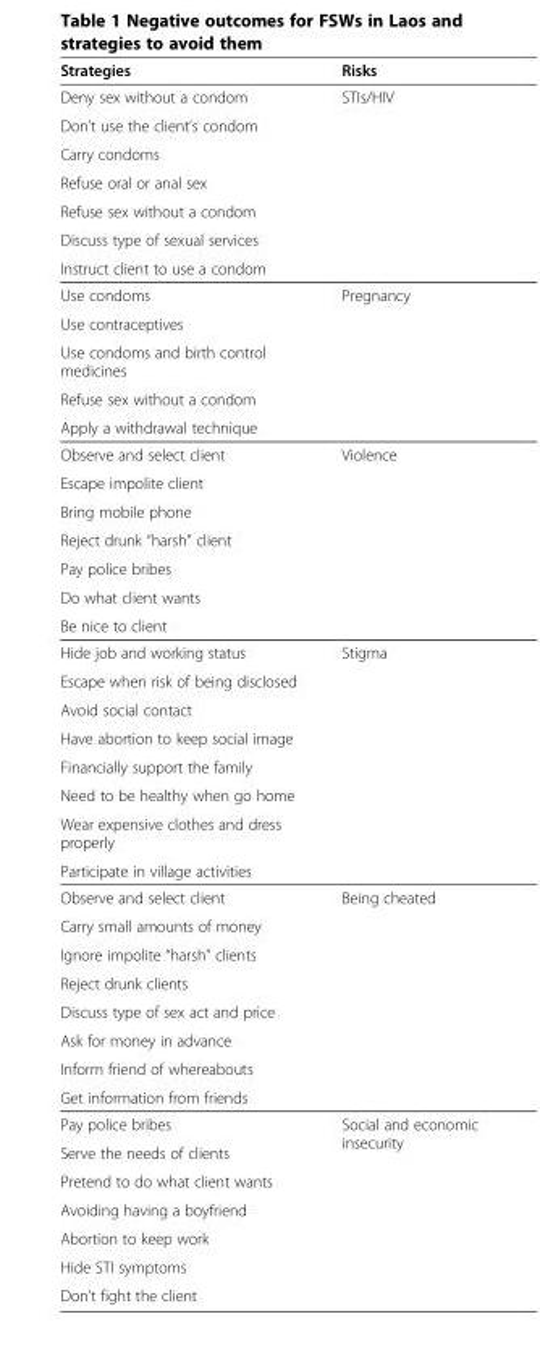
<table><thead><tr><td>Strategies</td><td>Risks</td></tr></thead><tbody><tr><td>Deny sex without a condom</td><td rowspan="7">STIs/HIV</td></tr><tr><td>Don’t use the client’s condom</td></tr><tr><td>Carry condoms</td></tr><tr><td>Refuse oral or anal sex</td></tr><tr><td>Refuse sex without a condom</td></tr><tr><td>Discuss type of sexual services</td></tr><tr><td>Instruct client to use a condom</td></tr><tr><td>Use condoms</td><td rowspan="5">Pregnancy</td></tr><tr><td>Use contraceptives</td></tr><tr><td>Use condoms and birth control medicines</td></tr><tr><td>Refuse sex without a condom</td></tr><tr><td>Apply a withdrawal technique</td></tr><tr><td>Observe and select client</td><td rowspan="7">Violence</td></tr><tr><td>Escape impolite client</td></tr><tr><td>Bring mobile phone</td></tr><tr><td>Reject drunk “harsh” client</td></tr><tr><td>Pay police bribes</td></tr><tr><td>Do what client wants</td></tr><tr><td>Be nice to client</td></tr><tr><td>Hide job and working status</td><td rowspan="8">Stigma</td></tr><tr><td>Escape when risk of being disclosed</td></tr><tr><td>Avoid social contact</td></tr><tr><td>Have abortion to keep social image</td></tr><tr><td>Financially support the family</td></tr><tr><td>Need to be healthy when go home</td></tr><tr><td>Wear expensive clothes and dress properly</td></tr><tr><td>Participate in village activities</td></tr><tr><td>Observe and select client</td><td rowspan="8">Being cheated</td></tr><tr><td>Carry small amounts of money</td></tr><tr><td>Ignore impolite “harsh” clients</td></tr><tr><td>Reject drunk clients</td></tr><tr><td>Discuss type of sex act and price</td></tr><tr><td>Ask for money in advance</td></tr><tr><td>Inform friend of whereabouts</td></tr><tr><td>Get information from friends</td></tr><tr><td>Pay police bribes</td><td rowspan="7">Social and economic insecurity</td></tr><tr><td>Serve the needs of clients</td></tr><tr><td>Pretend to do what client wants</td></tr><tr><td>Avoiding having a boyfriend</td></tr><tr><td>Abortion to keep work</td></tr><tr><td>Hide STI symptoms</td></tr><tr><td>Don’t fight the client</td></tr></tbody></table>